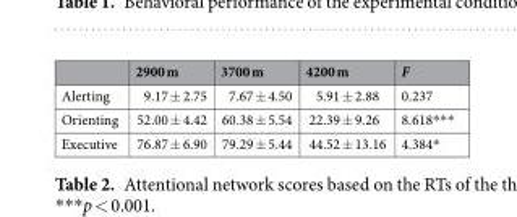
<table><thead><tr><td></td><td>2900 m</td><td>3700 m</td><td>4200 m</td><td>F</td></tr></thead><tbody><tr><td>Alerting</td><td>9.17 ± 2.75</td><td>7.67 ± 4.50</td><td>5.91 ± 2.88</td><td>0.237</td></tr><tr><td>Orienting</td><td>52.00 ± 4.42</td><td>60.38 ± 5.54</td><td>22.39 ± 9.26</td><td>8.618***</td></tr><tr><td>Executive</td><td>76.87 ± 6.90</td><td>79.29 ± 5.44</td><td>44.52 ± 13.16</td><td>4.384*</td></tr></tbody></table>